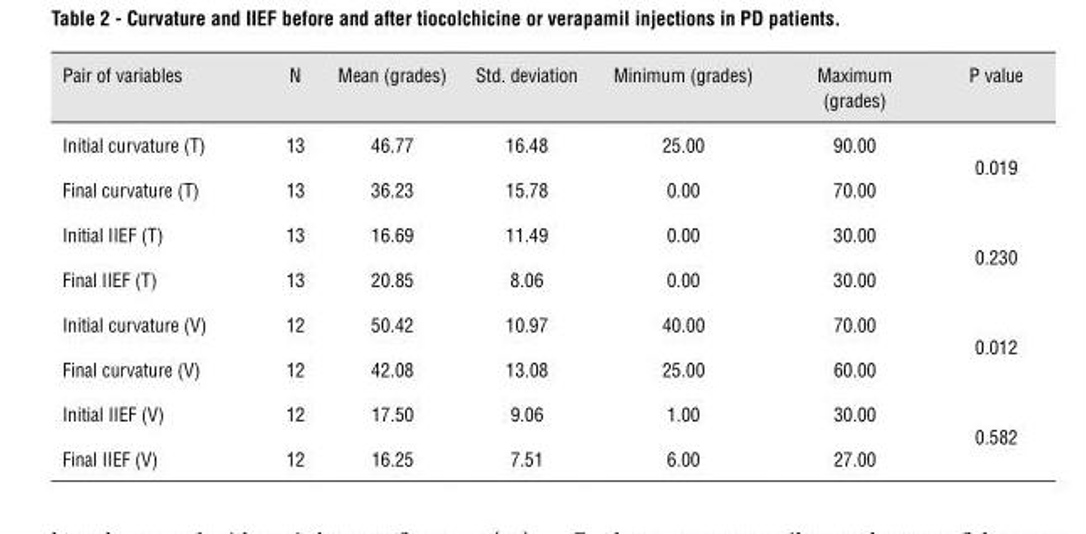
<table><thead><tr><td>Pair of variables</td><td>N</td><td>Mean (grades)</td><td>Std. deviation</td><td>Minimum (grades)</td><td>Maximum (grades)</td><td>P value</td></tr></thead><tbody><tr><td>Initial curvature (T)</td><td>13</td><td>46.77</td><td>16.48</td><td>25.00</td><td>90.00</td><td rowspan="2">0.019</td></tr><tr><td>Final curvature (T)</td><td>13</td><td>36.23</td><td>15.78</td><td>0.00</td><td>70.00</td></tr><tr><td>Initial IIEF (T)</td><td>13</td><td>16.69</td><td>11.49</td><td>0.00</td><td>30.00</td><td rowspan="2">0.230</td></tr><tr><td>Final IIEF (T)</td><td>13</td><td>20.85</td><td>8.06</td><td>0.00</td><td>30.00</td></tr><tr><td>Initial curvature (V)</td><td>12</td><td>50.42</td><td>10.97</td><td>40.00</td><td>70.00</td><td rowspan="2">0.012</td></tr><tr><td>Final curvature (V)</td><td>12</td><td>42.08</td><td>13.08</td><td>25.00</td><td>60.00</td></tr><tr><td>Initial IIEF (V)</td><td>12</td><td>17.50</td><td>9.06</td><td>1.00</td><td>30.00</td><td rowspan="2">0.582</td></tr><tr><td>Final IIEF (V)</td><td>12</td><td>16.25</td><td>7.51</td><td>6.00</td><td>27.00</td></tr></tbody></table>